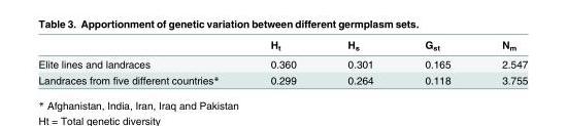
<table><thead><tr><td></td><td>H<sub>t</sub></td><td>H<sub>s</sub></td><td>G<sub>st</sub></td><td>N<sub>m</sub></td></tr></thead><tbody><tr><td>Elite lines and landraces</td><td>0.360</td><td>0.301</td><td>0.165</td><td>2.547</td></tr><tr><td>Landraces from five different countries*</td><td>0.299</td><td>0.264</td><td>0.118</td><td>3.755</td></tr></tbody></table>